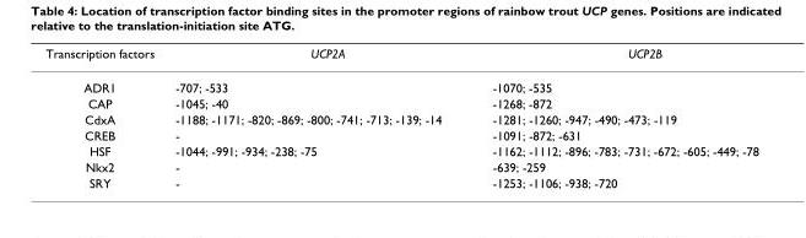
<table><thead><tr><td>Transcription factors</td><td>UCP2A</td><td>UCP2B</td></tr></thead><tbody><tr><td>ADR1</td><td>-707; -533</td><td>-1070; -535</td></tr><tr><td>CAP</td><td>-1045; -40</td><td>-1268; -872</td></tr><tr><td>CdxA</td><td>-1188; -1171; -820; -869; -800; -741; -713; -139; -14</td><td>-1281; -1260; -947; -490; -473; -119</td></tr><tr><td>CREB</td><td>-</td><td>-1091; -872; -631</td></tr><tr><td>HSF</td><td>-1044; -991; -934; -238; -75</td><td>-1162; -1112; -896; -783; -731; -672; -605; -449; -78</td></tr><tr><td>Nkx2</td><td>-</td><td>-639; -259</td></tr><tr><td>SRY</td><td>-</td><td>-1253; -1106; -938; -720</td></tr></tbody></table>